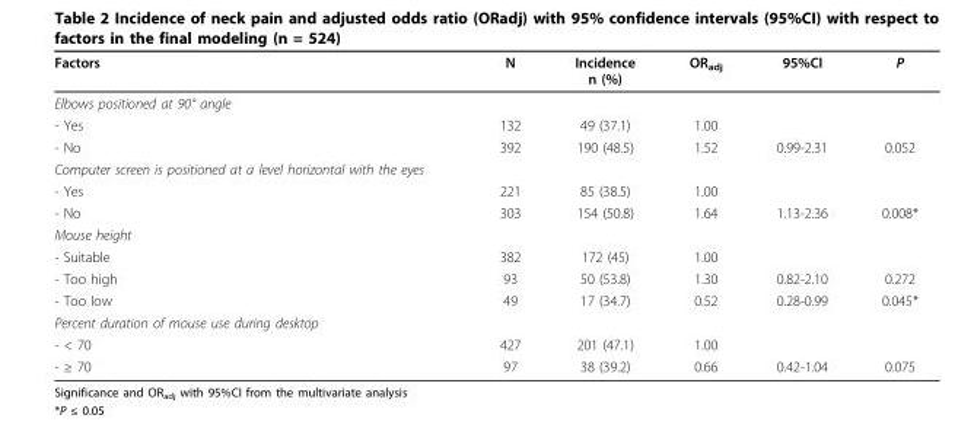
<table><thead><tr><td>Factors</td><td>N</td><td>Incidence n (%)</td><td>OR<sub>adj</sub></td><td>95%CI</td><td>P</td></tr></thead><tbody><tr><td colspan="6">Elbows positioned at 90° angle</td></tr><tr><td>- Yes</td><td>132</td><td>49 (37.1)</td><td>1.00</td><td></td><td></td></tr><tr><td>- No</td><td>392</td><td>190 (48.5)</td><td>1.52</td><td>0.99-2.31</td><td>0.052</td></tr><tr><td colspan="6">Computer screen is positioned at a level horizontal with the eyes</td></tr><tr><td>- Yes</td><td>221</td><td>85 (38.5)</td><td>1.00</td><td></td><td></td></tr><tr><td>- No</td><td>303</td><td>154 (50.8)</td><td>1.64</td><td>1.13-2.36</td><td>0.008*</td></tr><tr><td colspan="6">Mouse height</td></tr><tr><td>- Suitable</td><td>382</td><td>172 (45)</td><td>1.00</td><td></td><td></td></tr><tr><td>- Too high</td><td>93</td><td>50 (53.8)</td><td>1.30</td><td>0.82-2.10</td><td>0.272</td></tr><tr><td>- Too low</td><td>49</td><td>17 (34.7)</td><td>0.52</td><td>0.28-0.99</td><td>0.045*</td></tr><tr><td colspan="6">Percent duration of mouse use during desktop</td></tr><tr><td>- &lt; 70</td><td>427</td><td>201 (47.1)</td><td>1.00</td><td></td><td></td></tr><tr><td>- ≥ 70</td><td>97</td><td>38 (39.2)</td><td>0.66</td><td>0.42-1.04</td><td>0.075</td></tr></tbody></table>